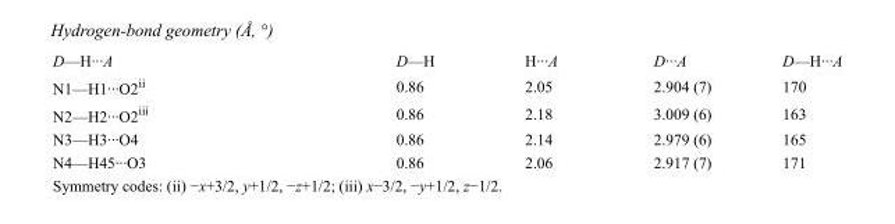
<table><tbody><tr><td>D—H···A</td><td>D—H</td><td>H···A</td><td>D···A</td><td>D—H···A</td></tr><tr><td>N1—H1···O2<sup>ii</sup></td><td>0.86</td><td>2.05</td><td>2.904 (7)</td><td>170</td></tr><tr><td>N2—H2···O2<sup>iii</sup></td><td>0.86</td><td>2.18</td><td>3.009 (6)</td><td>163</td></tr><tr><td>N3—H3···O4</td><td>0.86</td><td>2.14</td><td>2.979 (6)</td><td>165</td></tr><tr><td>N4—H45···O3</td><td>0.86</td><td>2.06</td><td>2.917 (7)</td><td>171</td></tr></tbody></table>